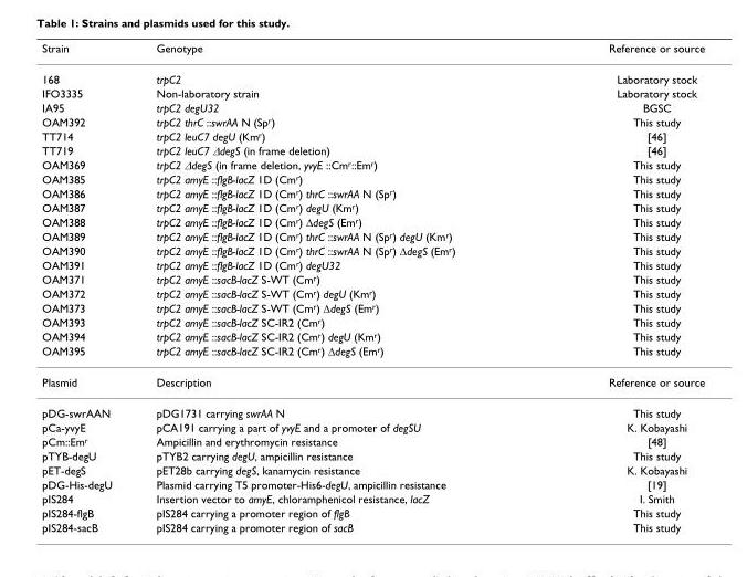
<table><thead><tr><td>Strain</td><td>Genotype</td><td>Reference or source</td></tr></thead><tbody><tr><td>168</td><td>trpC2</td><td>Laboratory stock</td></tr><tr><td>IFO3335</td><td>Non-laboratory strain</td><td>Laboratory stock</td></tr><tr><td>IA95</td><td>trpC2 degU32</td><td>BGSC</td></tr><tr><td>OAM392</td><td>trpC2 thrC ::swrAA N (Sp<sup>r</sup>)</td><td>This study</td></tr><tr><td>TT714</td><td>trpC2 leuC7 degU (Km<sup>r</sup>)</td><td>[46]</td></tr><tr><td>TT719</td><td>trpC2 leuC7 ΔdegS (in frame deletion)</td><td>[46]</td></tr><tr><td>OAM369</td><td>trpC2 ΔdegS (in frame deletion, yvyE ::Cm<sup>r</sup>::Em<sup>r</sup>)</td><td>This study</td></tr><tr><td>OAM385</td><td>trpC2 amyE ::flgB-lacZ 1D (Cm<sup>r</sup>)</td><td>This study</td></tr><tr><td>OAM386</td><td>trpC2 amyE ::flgB-lacZ 1D (Cm<sup>r</sup>) thrC ::swrAA N (Sp<sup>r</sup>)</td><td>This study</td></tr><tr><td>OAM387</td><td>trpC2 amyE ::flgB-lacZ 1D (Cm<sup>r</sup>) degU (Km<sup>r</sup>)</td><td>This study</td></tr><tr><td>OAM388</td><td>trpC2 amyE ::flgB-lacZ 1D (Cm<sup>r</sup>) ΔdegS (Em<sup>r</sup>)</td><td>This study</td></tr><tr><td>OAM389</td><td>trpC2 amyE ::flgB-lacZ 1D (Cm<sup>r</sup>) thrC ::swrAA N (Sp<sup>r</sup>) degU (Km<sup>r</sup>)</td><td>This study</td></tr><tr><td>OAM390</td><td>trpC2 amyE ::flgB-lacZ 1D (Cm<sup>r</sup>) thrC ::swrAA N (Sp<sup>r</sup>) ΔdegS (Em<sup>r</sup>)</td><td>This study</td></tr><tr><td>OAM391</td><td>trpC2 amyE ::flgB-lacZ 1D (Cm<sup>r</sup>) degU32</td><td>This study</td></tr><tr><td>OAM371</td><td>trpC2 amyE ::sacB-lacZ S-WT (Cm<sup>r</sup>)</td><td>This study</td></tr><tr><td>OAM372</td><td>trpC2 amyE ::sacB-lacZ S-WT (Cm<sup>r</sup>) degU (Km<sup>r</sup>)</td><td>This study</td></tr><tr><td>OAM373</td><td>trpC2 amyE ::sacB-lacZ S-WT (Cm<sup>r</sup>) ΔdegS (Em<sup>r</sup>)</td><td>This study</td></tr><tr><td>OAM393</td><td>trpC2 amyE ::sacB-lacZ SC-IR2 (Cm<sup>r</sup>)</td><td>This study</td></tr><tr><td>OAM394</td><td>trpC2 amyE ::sacB-lacZ SC-IR2 (Cm<sup>r</sup>) degU (Km<sup>r</sup>)</td><td>This study</td></tr><tr><td>OAM395</td><td>trpC2 amyE ::sacB-lacZ SC-IR2 (Cm<sup>r</sup>) ΔdegS (Em<sup>r</sup>)</td><td>This study</td></tr><tr><td>Plasmid</td><td>Description</td><td>Reference or source</td></tr><tr><td>pDG-swrAAN</td><td>pDG1731 carrying swrAA N</td><td>This study</td></tr><tr><td>pCa-yvyE</td><td>pCA191 carrying a part of yvyE and a promoter of degSU</td><td>K. Kobayashi</td></tr><tr><td>pCm::Em<sup>r</sup></td><td>Ampicillin and erythromycin resistance</td><td>[48]</td></tr><tr><td>pTYB-degU</td><td>pTYB2 carrying degU, ampicillin resistance</td><td>This study</td></tr><tr><td>pET-degS</td><td>pET28b carrying degS, kanamycin resistance</td><td>K. Kobayashi</td></tr><tr><td>pDG-His-degU</td><td>Plasmid carrying T5 promoter-His6-degU, ampicillin resistance</td><td>[19]</td></tr><tr><td>pIS284</td><td>Insertion vector to amyE, chloramphenicol resistance, lacZ</td><td>I. Smith</td></tr><tr><td>pIS284-flgB</td><td>pIS284 carrying a promoter region of flgB</td><td>This study</td></tr><tr><td>pIS284-sacB</td><td>pIS284 carrying a promoter region of sacB</td><td>This study</td></tr></tbody></table>